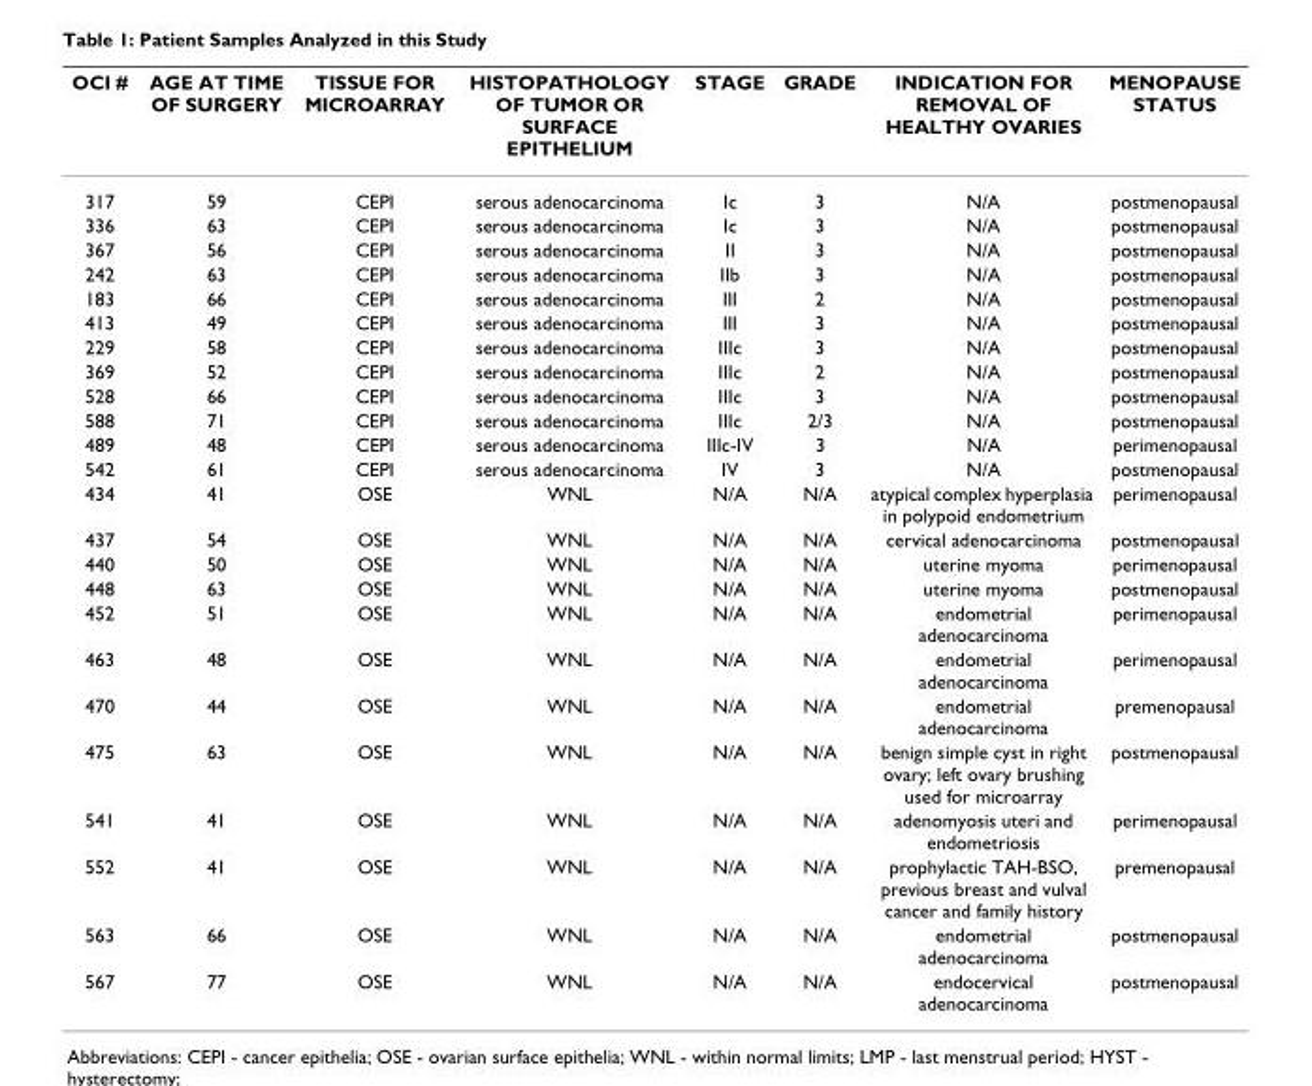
<table><thead><tr><td>OCI #</td><td>AGE AT TIME OF SURGERY</td><td>TISSUE FOR MICROARRAY</td><td>HISTOPATHOLOGY OF TUMOR OR SURFACE EPITHELIUM</td><td>STAGE</td><td>GRADE</td><td>INDICATION FOR REMOVAL OF HEALTHY OVARIES</td><td>MENOPAUSE STATUS</td></tr></thead><tbody><tr><td>317</td><td>59</td><td>CEPI</td><td>serous adenocarcinoma</td><td>Ic</td><td>3</td><td>N/A</td><td>postmenopausal</td></tr><tr><td>336</td><td>63</td><td>CEPI</td><td>serous adenocarcinoma</td><td>Ic</td><td>3</td><td>N/A</td><td>postmenopausal</td></tr><tr><td>367</td><td>56</td><td>CEPI</td><td>serous adenocarcinoma</td><td>II</td><td>3</td><td>N/A</td><td>postmenopausal</td></tr><tr><td>242</td><td>63</td><td>CEPI</td><td>serous adenocarcinoma</td><td>IIb</td><td>3</td><td>N/A</td><td>postmenopausal</td></tr><tr><td>183</td><td>66</td><td>CEPI</td><td>serous adenocarcinoma</td><td>III</td><td>2</td><td>N/A</td><td>postmenopausal</td></tr><tr><td>413</td><td>49</td><td>CEPI</td><td>serous adenocarcinoma</td><td>III</td><td>3</td><td>N/A</td><td>postmenopausal</td></tr><tr><td>229</td><td>58</td><td>CEPI</td><td>serous adenocarcinoma</td><td>IIIc</td><td>3</td><td>N/A</td><td>postmenopausal</td></tr><tr><td>369</td><td>52</td><td>CEPI</td><td>serous adenocarcinoma</td><td>IIIc</td><td>2</td><td>N/A</td><td>postmenopausal</td></tr><tr><td>528</td><td>66</td><td>CEPI</td><td>serous adenocarcinoma</td><td>IIIc</td><td>3</td><td>N/A</td><td>postmenopausal</td></tr><tr><td>588</td><td>71</td><td>CEPI</td><td>serous adenocarcinoma</td><td>IIIc</td><td>2/3</td><td>N/A</td><td>postmenopausal</td></tr><tr><td>489</td><td>48</td><td>CEPI</td><td>serous adenocarcinoma</td><td>IIIc-IV</td><td>3</td><td>N/A</td><td>perimenopausal</td></tr><tr><td>542</td><td>61</td><td>CEPI</td><td>serous adenocarcinoma</td><td>IV</td><td>3</td><td>N/A</td><td>postmenopausal</td></tr><tr><td>434</td><td>41</td><td>OSE</td><td>WNL</td><td>N/A</td><td>N/A</td><td>atypical complex hyperplasia in polypoid endometrium</td><td>perimenopausal</td></tr><tr><td>437</td><td>54</td><td>OSE</td><td>WNL</td><td>N/A</td><td>N/A</td><td>cervical adenocarcinoma</td><td>postmenopausal</td></tr><tr><td>440</td><td>50</td><td>OSE</td><td>WNL</td><td>N/A</td><td>N/A</td><td>uterine myoma</td><td>perimenopausal</td></tr><tr><td>448</td><td>63</td><td>OSE</td><td>WNL</td><td>N/A</td><td>N/A</td><td>uterine myoma</td><td>postmenopausal</td></tr><tr><td>452</td><td>51</td><td>OSE</td><td>WNL</td><td>N/A</td><td>N/A</td><td>endometrial adenocarcinoma</td><td>perimenopausal</td></tr><tr><td>463</td><td>48</td><td>OSE</td><td>WNL</td><td>N/A</td><td>N/A</td><td>endometrial adenocarcinoma</td><td>perimenopausal</td></tr><tr><td>470</td><td>44</td><td>OSE</td><td>WNL</td><td>N/A</td><td>N/A</td><td>endometrial adenocarcinoma</td><td>premenopausal</td></tr><tr><td>475</td><td>63</td><td>OSE</td><td>WNL</td><td>N/A</td><td>N/A</td><td>benign simple cyst in right ovary; left ovary brushing used for microarray</td><td>postmenopausal</td></tr><tr><td>541</td><td>41</td><td>OSE</td><td>WNL</td><td>N/A</td><td>N/A</td><td>adenomyosis uteri and endometriosis</td><td>perimenopausal</td></tr><tr><td>552</td><td>41</td><td>OSE</td><td>WNL</td><td>N/A</td><td>N/A</td><td>prophylactic TAH-BSO, previous breast and vulval cancer and family history</td><td>premenopausal</td></tr><tr><td>563</td><td>66</td><td>OSE</td><td>WNL</td><td>N/A</td><td>N/A</td><td>endometrial adenocarcinoma</td><td>postmenopausal</td></tr><tr><td>567</td><td>77</td><td>OSE</td><td>WNL</td><td>N/A</td><td>N/A</td><td>endocervical adenocarcinoma</td><td>postmenopausal</td></tr></tbody></table>